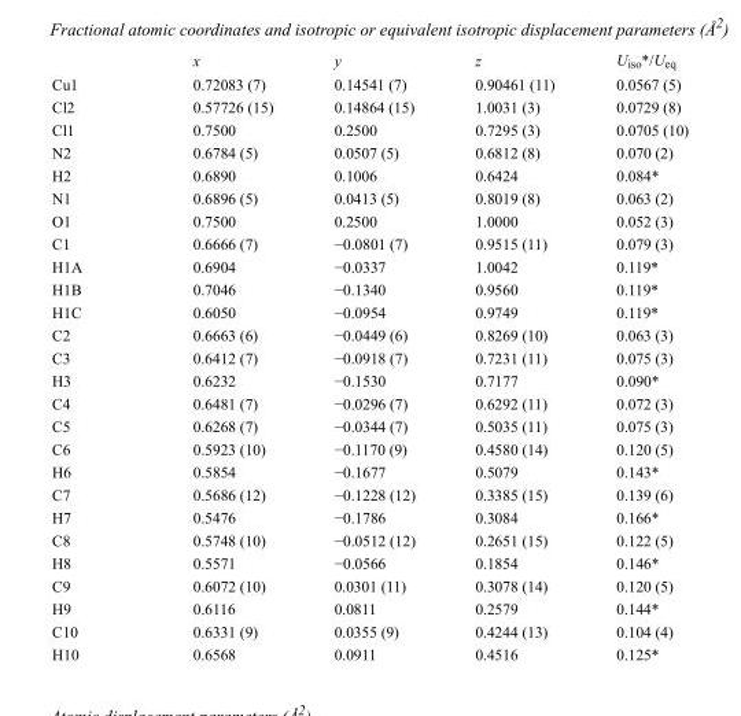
<table><thead><tr><td></td><td>x</td><td>y</td><td>z</td><td>U<sub>iso</sub>*/U<sub>eq</sub></td></tr></thead><tbody><tr><td>Cu1</td><td>0.72083 (7)</td><td>0.14541 (7)</td><td>0.90461 (11)</td><td>0.0567 (5)</td></tr><tr><td>Cl2</td><td>0.57726 (15)</td><td>0.14864 (15)</td><td>1.0031 (3)</td><td>0.0729 (8)</td></tr><tr><td>Cl1</td><td>0.7500</td><td>0.2500</td><td>0.7295 (3)</td><td>0.0705 (10)</td></tr><tr><td>N2</td><td>0.6784 (5)</td><td>0.0507 (5)</td><td>0.6812 (8)</td><td>0.070 (2)</td></tr><tr><td>H2</td><td>0.6890</td><td>0.1006</td><td>0.6424</td><td>0.084*</td></tr><tr><td>N1</td><td>0.6896 (5)</td><td>0.0413 (5)</td><td>0.8019 (8)</td><td>0.063 (2)</td></tr><tr><td>O1</td><td>0.7500</td><td>0.2500</td><td>1.0000</td><td>0.052 (3)</td></tr><tr><td>C1</td><td>0.6666 (7)</td><td>−0.0801 (7)</td><td>0.9515 (11)</td><td>0.079 (3)</td></tr><tr><td>H1A</td><td>0.6904</td><td>−0.0337</td><td>1.0042</td><td>0.119*</td></tr><tr><td>H1B</td><td>0.7046</td><td>−0.1340</td><td>0.9560</td><td>0.119*</td></tr><tr><td>H1C</td><td>0.6050</td><td>−0.0954</td><td>0.9749</td><td>0.119*</td></tr><tr><td>C2</td><td>0.6663 (6)</td><td>−0.0449 (6)</td><td>0.8269 (10)</td><td>0.063 (3)</td></tr><tr><td>C3</td><td>0.6412 (7)</td><td>−0.0918 (7)</td><td>0.7231 (11)</td><td>0.075 (3)</td></tr><tr><td>H3</td><td>0.6232</td><td>−0.1530</td><td>0.7177</td><td>0.090*</td></tr><tr><td>C4</td><td>0.6481 (7)</td><td>−0.0296 (7)</td><td>0.6292 (11)</td><td>0.072 (3)</td></tr><tr><td>C5</td><td>0.6268 (7)</td><td>−0.0344 (7)</td><td>0.5035 (11)</td><td>0.075 (3)</td></tr><tr><td>C6</td><td>0.5923 (10)</td><td>−0.1170 (9)</td><td>0.4580 (14)</td><td>0.120 (5)</td></tr><tr><td>H6</td><td>0.5854</td><td>−0.1677</td><td>0.5079</td><td>0.143*</td></tr><tr><td>C7</td><td>0.5686 (12)</td><td>−0.1228 (12)</td><td>0.3385 (15)</td><td>0.139 (6)</td></tr><tr><td>H7</td><td>0.5476</td><td>−0.1786</td><td>0.3084</td><td>0.166*</td></tr><tr><td>C8</td><td>0.5748 (10)</td><td>−0.0512 (12)</td><td>0.2651 (15)</td><td>0.122 (5)</td></tr><tr><td>H8</td><td>0.5571</td><td>−0.0566</td><td>0.1854</td><td>0.146*</td></tr><tr><td>C9</td><td>0.6072 (10)</td><td>0.0301 (11)</td><td>0.3078 (14)</td><td>0.120 (5)</td></tr><tr><td>H9</td><td>0.6116</td><td>0.0811</td><td>0.2579</td><td>0.144*</td></tr><tr><td>C10</td><td>0.6331 (9)</td><td>0.0355 (9)</td><td>0.4244 (13)</td><td>0.104 (4)</td></tr><tr><td>H10</td><td>0.6568</td><td>0.0911</td><td>0.4516</td><td>0.125*</td></tr></tbody></table>